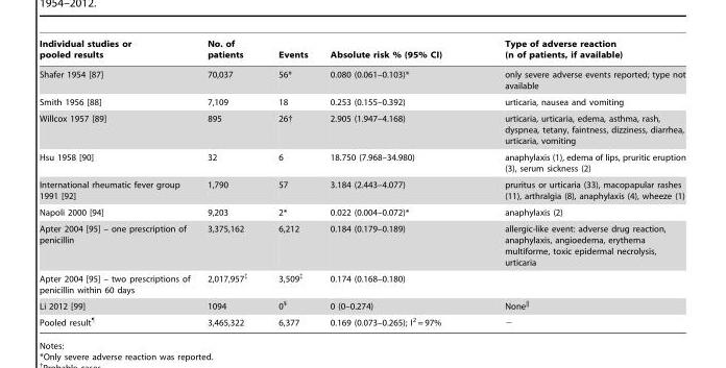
<table><thead><tr><td>Individual studies or pooled results</td><td>No. of patients</td><td>Events</td><td>Absolute risk % (95% CI)</td><td>Type of adverse reaction (n of patients, if available)</td></tr></thead><tbody><tr><td>Shafer 1954 [87]</td><td>70,037</td><td>56*</td><td>0.080 (0.061–0.103)*</td><td>only severe adverse events reported; type not available</td></tr><tr><td>Smith 1956 [88]</td><td>7,109</td><td>18</td><td>0.253 (0.155–0.392)</td><td>urticaria, nausea and vomiting</td></tr><tr><td>Willcox 1957 [89]</td><td>895</td><td>26†</td><td>2.905 (1.947–4.168)</td><td>urticaria, urticaria, edema, asthma, rash, dyspnea, tetany, faintness, dizziness, diarrhea, urticaria, vomiting</td></tr><tr><td>Hsu 1958 [90]</td><td>32</td><td>6</td><td>18.750 (7.968–34.980)</td><td>anaphylaxis (1), edema of lips, pruritic eruption (3), serum sickness (2)</td></tr><tr><td>International rheumatic fever group 1991 [92]</td><td>1,790</td><td>57</td><td>3.184 (2.443–4.077)</td><td>pruritus or urticaria (33), macopapular rashes (11), arthralgia (8), anaphylaxis (4), wheeze (1)</td></tr><tr><td>Napoli 2000 [94]</td><td>9,203</td><td>2*</td><td>0.022 (0.004–0.072)*</td><td>anaphylaxis (2)</td></tr><tr><td>Apter 2004 [95] – one prescription of penicillin</td><td>3,375,162</td><td>6,212</td><td>0.184 (0.179–0.189)</td><td>allergic-like event: adverse drug reaction, anaphylaxis, angioedema, erythema multiforme, toxic epidermal necrolysis, urticaria</td></tr><tr><td>Apter 2004 [95] – two prescriptions of penicillin within 60 days</td><td>2,017,957‡</td><td>3,509‡</td><td>0.174 (0.168–0.180)</td><td></td></tr><tr><td>Li 2012 [99]</td><td>1094</td><td>0§</td><td>0 (0–0.274)</td><td>None||</td></tr><tr><td>Pooled result¶</td><td>3,465,322</td><td>6,377</td><td>0.169 (0.073–0.265); I<sup>2</sup> = 97%</td><td>−</td></tr></tbody></table>